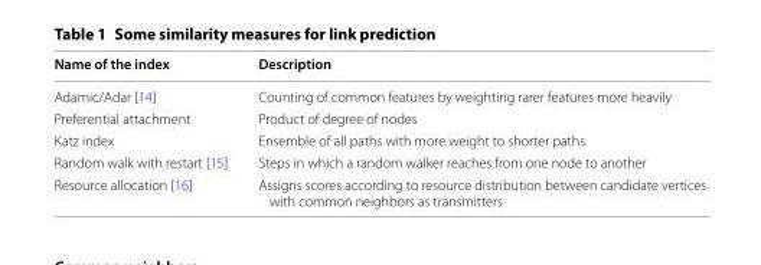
<table><thead><tr><td>Name of the index</td><td>Description</td></tr></thead><tbody><tr><td>Adamic/Adar [14]</td><td>Counting of common features by weighting rarer features more heavily</td></tr><tr><td>Preferential attachment</td><td>Product of degree of nodes</td></tr><tr><td>Katz index</td><td>Ensemble of all paths with more weight to shorter paths</td></tr><tr><td>Random walk with restart [15]</td><td>Steps in which a random walker reaches from one node to another</td></tr><tr><td>Resource allocation [16]</td><td>Assigns scores according to resource distribution between candidate vertices with common neighbors as transmitters</td></tr></tbody></table>